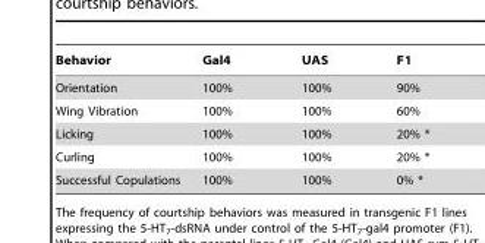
<table><thead><tr><td>Behavior</td><td>Gal4</td><td>UAS</td><td>F1</td></tr></thead><tbody><tr><td>Orientation</td><td>100%</td><td>100%</td><td>90%</td></tr><tr><td>Wing Vibration</td><td>100%</td><td>100%</td><td>60%</td></tr><tr><td>Licking</td><td>100%</td><td>100%</td><td>20% *</td></tr><tr><td>Curling</td><td>100%</td><td>100%</td><td>20% *</td></tr><tr><td>Successful Copulations</td><td>100%</td><td>100%</td><td>0% *</td></tr></tbody></table>